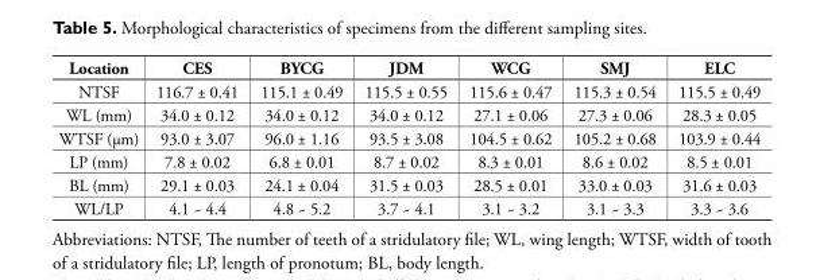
<table><thead><tr><td>Location</td><td>CES</td><td>BYCG</td><td>JDM</td><td>WCG</td><td>SMJ</td><td>ELC</td></tr></thead><tbody><tr><td>NTSF</td><td>116.7 ± 0.41</td><td>115.1 ± 0.49</td><td>115.5 ± 0.55</td><td>115.6 ± 0.47</td><td>115.3 ± 0.54</td><td>115.5 ± 0.49</td></tr><tr><td>WL (mm)</td><td>34.0 ± 0.12</td><td>34.0 ± 0.12</td><td>34.0 ± 0.12</td><td>27.1 ± 0.06</td><td>27.3 ± 0.06</td><td>28.3 ± 0.05</td></tr><tr><td>WTSF (µm)</td><td>93.0 ± 3.07</td><td>96.0 ± 1.16</td><td>93.5 ± 3.08</td><td>104.5 ± 0.62</td><td>105.2 ± 0.68</td><td>103.9 ± 0.44</td></tr><tr><td>LP (mm)</td><td>7.8 ± 0.02</td><td>6.8 ± 0.01</td><td>8.7 ± 0.02</td><td>8.3 ± 0.01</td><td>8.6 ± 0.02</td><td>8.5 ± 0.01</td></tr><tr><td>BL (mm)</td><td>29.1 ± 0.03</td><td>24.1 ± 0.04</td><td>31.5 ± 0.03</td><td>28.5 ± 0.01</td><td>33.0 ± 0.03</td><td>31.6 ± 0.03</td></tr><tr><td>WL/LP</td><td>4.1 ~ 4.4</td><td>4.8 ~ 5.2</td><td>3.7 ~ 4.1</td><td>3.1 ~ 3.2</td><td>3.1 ~ 3.3</td><td>3.3 ~ 3.6</td></tr></tbody></table>